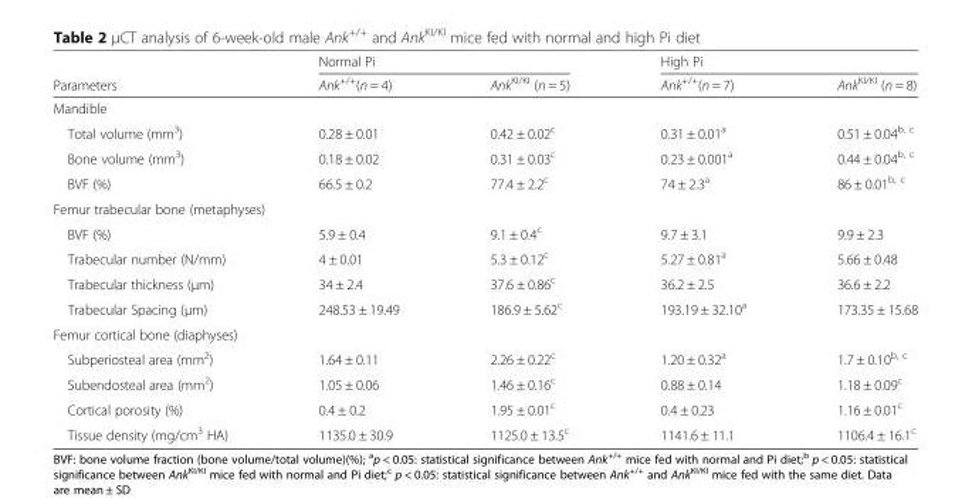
<table><thead><tr><td rowspan="2">Parameters</td><td colspan="2">Normal Pi</td><td colspan="2">High Pi</td></tr><tr><td>Ank<sup>+/+</sup>(n = 4)</td><td>Ank<sup>KI/KI</sup> (n = 5)</td><td>Ank<sup>+/+</sup>(n = 7)</td><td>Ank<sup>KI/KI</sup> (n = 8)</td></tr></thead><tbody><tr><td colspan="5">Mandible</td></tr><tr><td>Total volume (mm<sup>3</sup>)</td><td>0.28 ± 0.01</td><td>0.42 ± 0.02<sup>c</sup></td><td>0.31 ± 0.01<sup>a</sup></td><td>0.51 ± 0.04<sup>b, c</sup></td></tr><tr><td>Bone volume (mm<sup>3</sup>)</td><td>0.18 ± 0.02</td><td>0.31 ± 0.03<sup>c</sup></td><td>0.23 ± 0.001<sup>a</sup></td><td>0.44 ± 0.04<sup>b, c</sup></td></tr><tr><td>BVF (%)</td><td>66.5 ± 0.2</td><td>77.4 ± 2.2<sup>c</sup></td><td>74 ± 2.3<sup>a</sup></td><td>86 ± 0.01<sup>b, c</sup></td></tr><tr><td colspan="5">Femur trabecular bone (metaphyses)</td></tr><tr><td>BVF (%)</td><td>5.9 ± 0.4</td><td>9.1 ± 0.4<sup>c</sup></td><td>9.7 ± 3.1</td><td>9.9 ± 2.3</td></tr><tr><td>Trabecular number (N/mm)</td><td>4 ± 0.01</td><td>5.3 ± 0.12<sup>c</sup></td><td>5.27 ± 0.81<sup>a</sup></td><td>5.66 ± 0.48</td></tr><tr><td>Trabecular thickness (μm)</td><td>34 ± 2.4</td><td>37.6 ± 0.86<sup>c</sup></td><td>36.2 ± 2.5</td><td>36.6 ± 2.2</td></tr><tr><td>Trabecular Spacing (μm)</td><td>248.53 ± 19.49</td><td>186.9 ± 5.62<sup>c</sup></td><td>193.19 ± 32.10<sup>a</sup></td><td>173.35 ± 15.68</td></tr><tr><td colspan="5">Femur cortical bone (diaphyses)</td></tr><tr><td>Subperiosteal area (mm<sup>2</sup>)</td><td>1.64 ± 0.11</td><td>2.26 ± 0.22<sup>c</sup></td><td>1.20 ± 0.32<sup>a</sup></td><td>1.7 ± 0.10<sup>b, c</sup></td></tr><tr><td>Subendosteal area (mm<sup>2</sup>)</td><td>1.05 ± 0.06</td><td>1.46 ± 0.16<sup>c</sup></td><td>0.88 ± 0.14</td><td>1.18 ± 0.09<sup>c</sup></td></tr><tr><td>Cortical porosity (%)</td><td>0.4 ± 0.2</td><td>1.95 ± 0.01<sup>c</sup></td><td>0.4 ± 0.23</td><td>1.16 ± 0.01<sup>c</sup></td></tr><tr><td>Tissue density (mg/cm<sup>3</sup> HA)</td><td>1135.0 ± 30.9</td><td>1125.0 ± 13.5<sup>c</sup></td><td>1141.6 ± 11.1</td><td>1106.4 ± 16.1<sup>c</sup></td></tr></tbody></table>